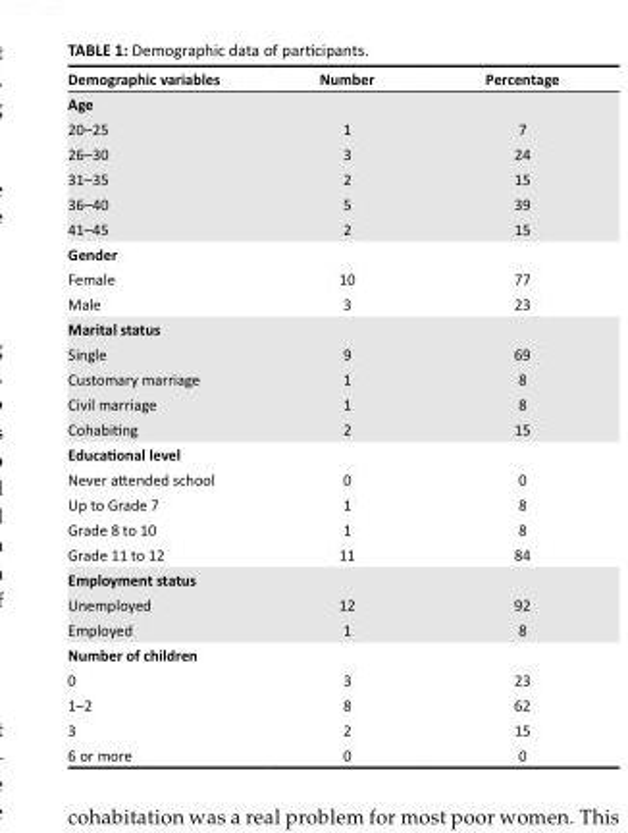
<table><thead><tr><td>Demographic variables</td><td>Number</td><td>Percentage</td></tr></thead><tbody><tr><td colspan="3">Age</td></tr><tr><td>20–25</td><td>1</td><td>7</td></tr><tr><td>26–30</td><td>3</td><td>24</td></tr><tr><td>31–35</td><td>2</td><td>15</td></tr><tr><td>36–40</td><td>5</td><td>39</td></tr><tr><td>41–45</td><td>2</td><td>15</td></tr><tr><td colspan="3">Gender</td></tr><tr><td>Female</td><td>10</td><td>77</td></tr><tr><td>Male</td><td>3</td><td>23</td></tr><tr><td colspan="3">Marital status</td></tr><tr><td>Single</td><td>9</td><td>69</td></tr><tr><td>Customary marriage</td><td>1</td><td>8</td></tr><tr><td>Civil marriage</td><td>1</td><td>8</td></tr><tr><td>Cohabiting</td><td>2</td><td>15</td></tr><tr><td colspan="3">Educational level</td></tr><tr><td>Never attended school</td><td>0</td><td>0</td></tr><tr><td>Up to Grade 7</td><td>1</td><td>8</td></tr><tr><td>Grade 8 to 10</td><td>1</td><td>8</td></tr><tr><td>Grade 11 to 12</td><td>11</td><td>84</td></tr><tr><td colspan="3">Employment status</td></tr><tr><td>Unemployed</td><td>12</td><td>92</td></tr><tr><td>Employed</td><td>1</td><td>8</td></tr><tr><td colspan="3">Number of children</td></tr><tr><td>0</td><td>3</td><td>23</td></tr><tr><td>1–2</td><td>8</td><td>62</td></tr><tr><td>3</td><td>2</td><td>15</td></tr><tr><td>6 or more</td><td>0</td><td>0</td></tr></tbody></table>